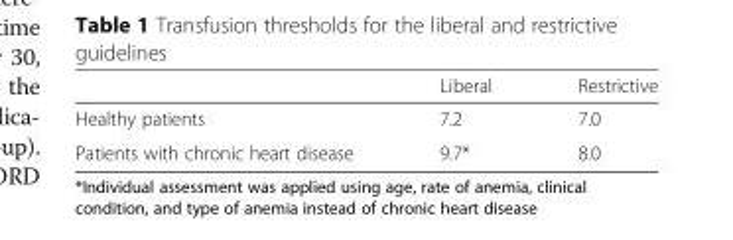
<table><thead><tr><td></td><td>Liberal</td><td>Restrictive</td></tr></thead><tbody><tr><td>Healthy patients</td><td>7.2</td><td>7.0</td></tr><tr><td>Patients with chronic heart disease</td><td>9.7*</td><td>8.0</td></tr></tbody></table>